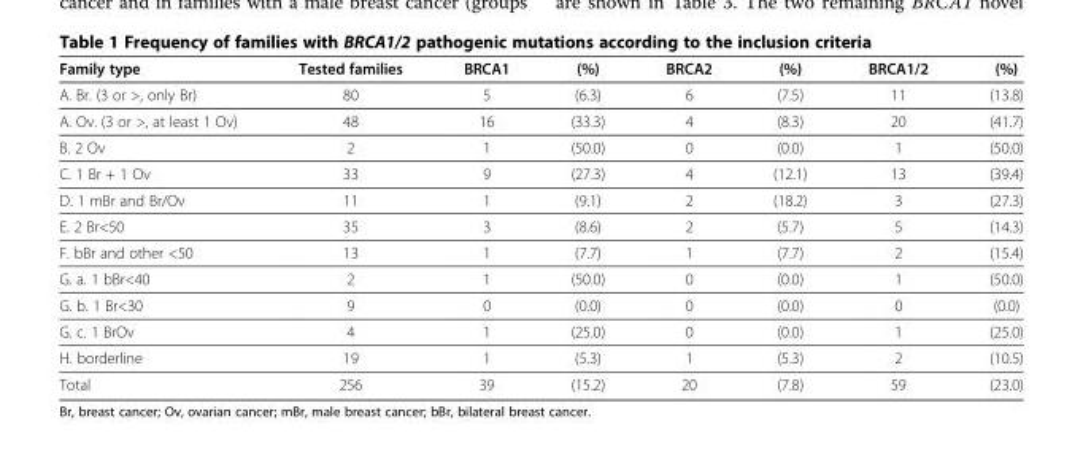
<table><thead><tr><td>Family type</td><td>Tested families</td><td>BRCA1</td><td>(%)</td><td>BRCA2</td><td>(%)</td><td>BRCA1/2</td><td>(%)</td></tr></thead><tbody><tr><td>A. Br. (3 or &gt;, only Br)</td><td>80</td><td>5</td><td>(6.3)</td><td>6</td><td>(7.5)</td><td>11</td><td>(13.8)</td></tr><tr><td>A. Ov. (3 or &gt;, at least 1 Ov)</td><td>48</td><td>16</td><td>(33.3)</td><td>4</td><td>(8.3)</td><td>20</td><td>(41.7)</td></tr><tr><td>B. 2 Ov</td><td>2</td><td>1</td><td>(50.0)</td><td>0</td><td>(0.0)</td><td>1</td><td>(50.0)</td></tr><tr><td>C. 1 Br + 1 Ov</td><td>33</td><td>9</td><td>(27.3)</td><td>4</td><td>(12.1)</td><td>13</td><td>(39.4)</td></tr><tr><td>D. 1 mBr and Br/Ov</td><td>11</td><td>1</td><td>(9.1)</td><td>2</td><td>(18.2)</td><td>3</td><td>(27.3)</td></tr><tr><td>E. 2 Br&lt;50</td><td>35</td><td>3</td><td>(8.6)</td><td>2</td><td>(5.7)</td><td>5</td><td>(14.3)</td></tr><tr><td>F. bBr and other &lt;50</td><td>13</td><td>1</td><td>(7.7)</td><td>1</td><td>(7.7)</td><td>2</td><td>(15.4)</td></tr><tr><td>G. a. 1 bBr&lt;40</td><td>2</td><td>1</td><td>(50.0)</td><td>0</td><td>(0.0)</td><td>1</td><td>(50.0)</td></tr><tr><td>G. b. 1 Br&lt;30</td><td>9</td><td>0</td><td>(0.0)</td><td>0</td><td>(0.0)</td><td>0</td><td>(0.0)</td></tr><tr><td>G. c. 1 BrOv</td><td>4</td><td>1</td><td>(25.0)</td><td>0</td><td>(0.0)</td><td>1</td><td>(25.0)</td></tr><tr><td>H. borderline</td><td>19</td><td>1</td><td>(5.3)</td><td>1</td><td>(5.3)</td><td>2</td><td>(10.5)</td></tr><tr><td>Total</td><td>256</td><td>39</td><td>(15.2)</td><td>20</td><td>(7.8)</td><td>59</td><td>(23.0)</td></tr></tbody></table>